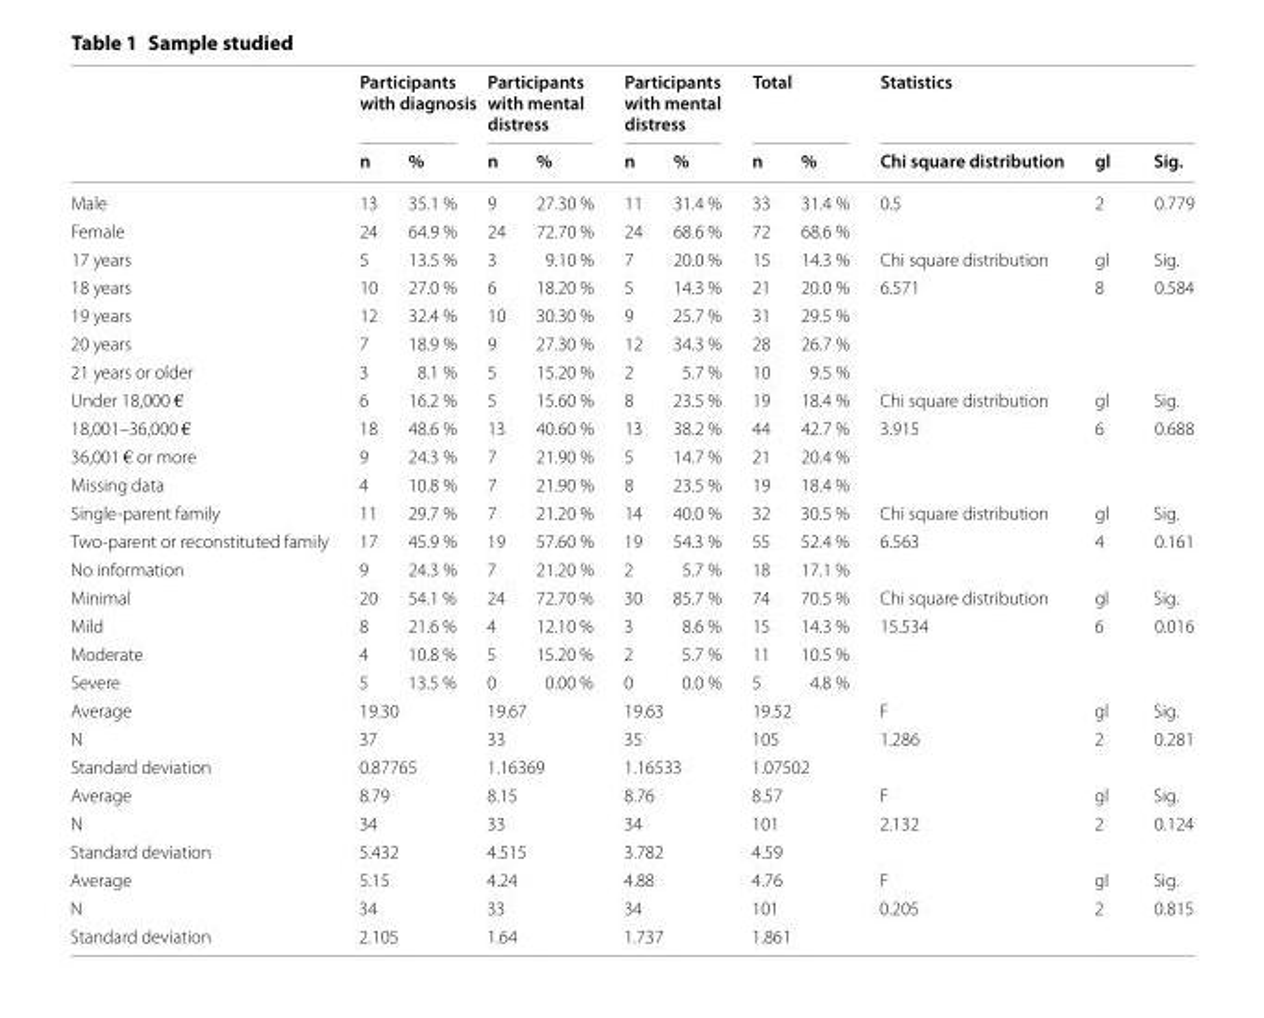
<table><thead><tr><td rowspan="2"></td><td colspan="2">Participants with diagnosis</td><td colspan="2">Participants with mental distress</td><td colspan="2">Participants with mental distress</td><td colspan="2">Total</td><td colspan="3">Statistics</td></tr><tr><td>n</td><td>%</td><td>n</td><td>%</td><td>n</td><td>%</td><td>n</td><td>%</td><td>Chi square distribution</td><td>gl</td><td>Sig.</td></tr></thead><tbody><tr><td>Male</td><td>13</td><td>35.1 %</td><td>9</td><td>27.30 %</td><td>11</td><td>31.4 %</td><td>33</td><td>31.4 %</td><td>0.5</td><td>2</td><td>0.779</td></tr><tr><td>Female</td><td>24</td><td>64.9 %</td><td>24</td><td>72.70 %</td><td>24</td><td>68.6 %</td><td>72</td><td>68.6 %</td><td></td><td></td><td></td></tr><tr><td>17 years</td><td>5</td><td>13.5 %</td><td>3</td><td>9.10 %</td><td>7</td><td>20.0 %</td><td>15</td><td>14.3 %</td><td>Chi square distribution</td><td>gl</td><td>Sig.</td></tr><tr><td>18 years</td><td>10</td><td>27.0 %</td><td>6</td><td>18.20 %</td><td>5</td><td>14.3 %</td><td>21</td><td>20.0 %</td><td>6.571</td><td>8</td><td>0.584</td></tr><tr><td>19 years</td><td>12</td><td>32.4 %</td><td>10</td><td>30.30 %</td><td>9</td><td>25.7 %</td><td>31</td><td>29.5 %</td><td></td><td></td><td></td></tr><tr><td>20 years</td><td>7</td><td>18.9 %</td><td>9</td><td>27.30 %</td><td>12</td><td>34.3 %</td><td>28</td><td>26.7 %</td><td></td><td></td><td></td></tr><tr><td>21 years or older</td><td>3</td><td>8.1 %</td><td>5</td><td>15.20 %</td><td>2</td><td>5.7 %</td><td>10</td><td>9.5 %</td><td></td><td></td><td></td></tr><tr><td>Under 18,000 €</td><td>6</td><td>16.2 %</td><td>5</td><td>15.60 %</td><td>8</td><td>23.5 %</td><td>19</td><td>18.4 %</td><td>Chi square distribution</td><td>gl</td><td>Sig.</td></tr><tr><td>18,001–36,000 €</td><td>18</td><td>48.6 %</td><td>13</td><td>40.60 %</td><td>13</td><td>38.2 %</td><td>44</td><td>42.7 %</td><td>3.915</td><td>6</td><td>0.688</td></tr><tr><td>36,001 € or more</td><td>9</td><td>24.3 %</td><td>7</td><td>21.90 %</td><td>5</td><td>14.7 %</td><td>21</td><td>20.4 %</td><td></td><td></td><td></td></tr><tr><td>Missing data</td><td>4</td><td>10.8 %</td><td>7</td><td>21.90 %</td><td>8</td><td>23.5 %</td><td>19</td><td>18.4 %</td><td></td><td></td><td></td></tr><tr><td>Single‑parent family</td><td>11</td><td>29.7 %</td><td>7</td><td>21.20 %</td><td>14</td><td>40.0 %</td><td>32</td><td>30.5 %</td><td>Chi square distribution</td><td>gl</td><td>Sig.</td></tr><tr><td>Two‑parent or reconstituted family</td><td>17</td><td>45.9 %</td><td>19</td><td>57.60 %</td><td>19</td><td>54.3 %</td><td>55</td><td>52.4 %</td><td>6.563</td><td>4</td><td>0.161</td></tr><tr><td>No information</td><td>9</td><td>24.3 %</td><td>7</td><td>21.20 %</td><td>2</td><td>5.7 %</td><td>18</td><td>17.1 %</td><td></td><td></td><td></td></tr><tr><td>Minimal</td><td>20</td><td>54.1 %</td><td>24</td><td>72.70 %</td><td>30</td><td>85.7 %</td><td>74</td><td>70.5 %</td><td>Chi square distribution</td><td>gl</td><td>Sig.</td></tr><tr><td>Mild</td><td>8</td><td>21.6 %</td><td>4</td><td>12.10 %</td><td>3</td><td>8.6 %</td><td>15</td><td>14.3 %</td><td>15.534</td><td>6</td><td>0.016</td></tr><tr><td>Moderate</td><td>4</td><td>10.8 %</td><td>5</td><td>15.20 %</td><td>2</td><td>5.7 %</td><td>11</td><td>10.5 %</td><td></td><td></td><td></td></tr><tr><td>Severe</td><td>5</td><td>13.5 %</td><td>0</td><td>0.00 %</td><td>0</td><td>0.0 %</td><td>5</td><td>4.8 %</td><td></td><td></td><td></td></tr><tr><td>Average</td><td colspan="2">19.30</td><td colspan="2">19.67</td><td colspan="2">19.63</td><td colspan="2">19.52</td><td>F</td><td>gl</td><td>Sig.</td></tr><tr><td>N</td><td colspan="2">37</td><td colspan="2">33</td><td colspan="2">35</td><td colspan="2">105</td><td>1.286</td><td>2</td><td>0.281</td></tr><tr><td>Standard deviation</td><td colspan="2">0.87765</td><td colspan="2">1.16369</td><td colspan="2">1.16533</td><td colspan="2">1.07502</td><td></td><td></td><td></td></tr><tr><td>Average</td><td colspan="2">8.79</td><td colspan="2">8.15</td><td colspan="2">8.76</td><td colspan="2">8.57</td><td>F</td><td>gl</td><td>Sig.</td></tr><tr><td>N</td><td colspan="2">34</td><td colspan="2">33</td><td colspan="2">34</td><td colspan="2">101</td><td>2.132</td><td>2</td><td>0.124</td></tr><tr><td>Standard deviation</td><td colspan="2">5.432</td><td colspan="2">4.515</td><td colspan="2">3.782</td><td colspan="2">4.59</td><td></td><td></td><td></td></tr><tr><td>Average</td><td colspan="2">5.15</td><td colspan="2">4.24</td><td colspan="2">4.88</td><td colspan="2">4.76</td><td>F</td><td>gl</td><td>Sig.</td></tr><tr><td>N</td><td colspan="2">34</td><td colspan="2">33</td><td colspan="2">34</td><td colspan="2">101</td><td>0.205</td><td>2</td><td>0.815</td></tr><tr><td>Standard deviation</td><td colspan="2">2.105</td><td colspan="2">1.64</td><td colspan="2">1.737</td><td colspan="2">1.861</td><td></td><td></td><td></td></tr></tbody></table>